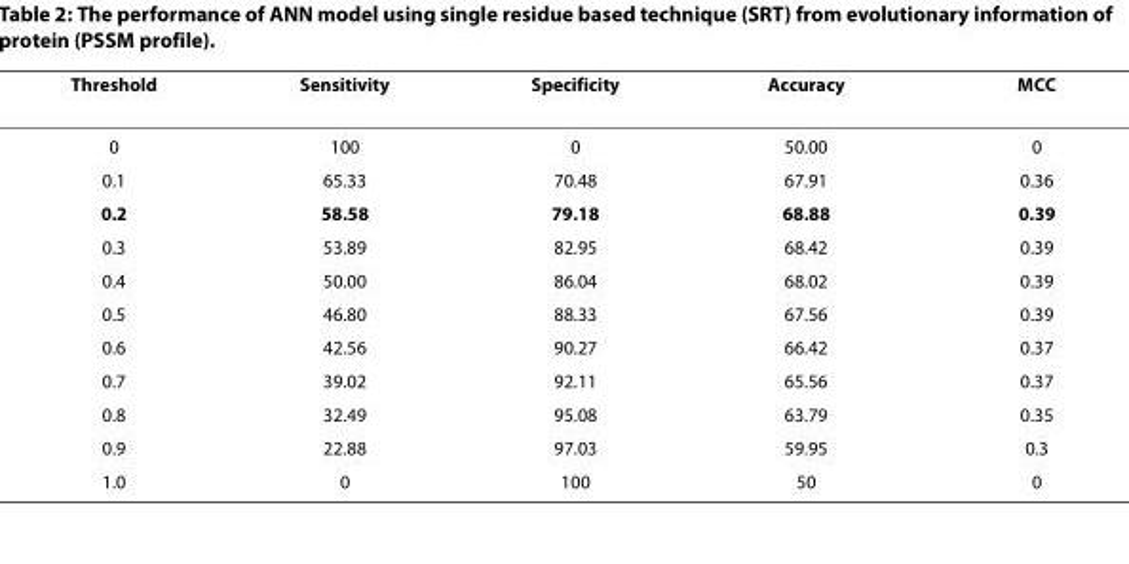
<table><thead><tr><td>Threshold</td><td>Sensitivity</td><td>Specificity</td><td>Accuracy</td><td>MCC</td></tr></thead><tbody><tr><td>0</td><td>100</td><td>0</td><td>50.00</td><td>0</td></tr><tr><td>0.1</td><td>65.33</td><td>70.48</td><td>67.91</td><td>0.36</td></tr><tr><td>0.2</td><td>58.58</td><td>79.18</td><td>68.88</td><td>0.39</td></tr><tr><td>0.3</td><td>53.89</td><td>82.95</td><td>68.42</td><td>0.39</td></tr><tr><td>0.4</td><td>50.00</td><td>86.04</td><td>68.02</td><td>0.39</td></tr><tr><td>0.5</td><td>46.80</td><td>88.33</td><td>67.56</td><td>0.39</td></tr><tr><td>0.6</td><td>42.56</td><td>90.27</td><td>66.42</td><td>0.37</td></tr><tr><td>0.7</td><td>39.02</td><td>92.11</td><td>65.56</td><td>0.37</td></tr><tr><td>0.8</td><td>32.49</td><td>95.08</td><td>63.79</td><td>0.35</td></tr><tr><td>0.9</td><td>22.88</td><td>97.03</td><td>59.95</td><td>0.3</td></tr><tr><td>1.0</td><td>0</td><td>100</td><td>50</td><td>0</td></tr></tbody></table>